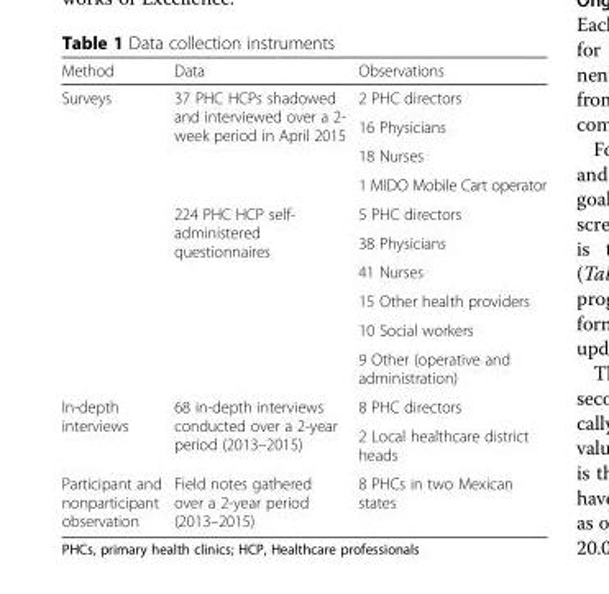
<table><thead><tr><td>Method</td><td>Data</td><td>Observations</td></tr></thead><tbody><tr><td rowspan="10">Surveys</td><td rowspan="4">37 PHC HCPs shadowed and interviewed over a 2- week period in April 2015</td><td>2 PHC directors</td></tr><tr><td>16 Physicians</td></tr><tr><td>18 Nurses</td></tr><tr><td>1 MIDO Mobile Cart operator</td></tr><tr><td rowspan="6">224 PHC HCP self- administered questionnaires</td><td>5 PHC directors</td></tr><tr><td>38 Physicians</td></tr><tr><td>41 Nurses</td></tr><tr><td>15 Other health providers</td></tr><tr><td>10 Social workers</td></tr><tr><td>9 Other (operative and administration)</td></tr><tr><td rowspan="2">In-depth interviews</td><td rowspan="2">68 in-depth interviews conducted over a 2-year period (2013–2015)</td><td>8 PHC directors</td></tr><tr><td>2 Local healthcare district heads</td></tr><tr><td>Participant and nonparticipant observation</td><td>Field notes gathered over a 2-year period (2013–2015)</td><td>8 PHCs in two Mexican states</td></tr></tbody></table>